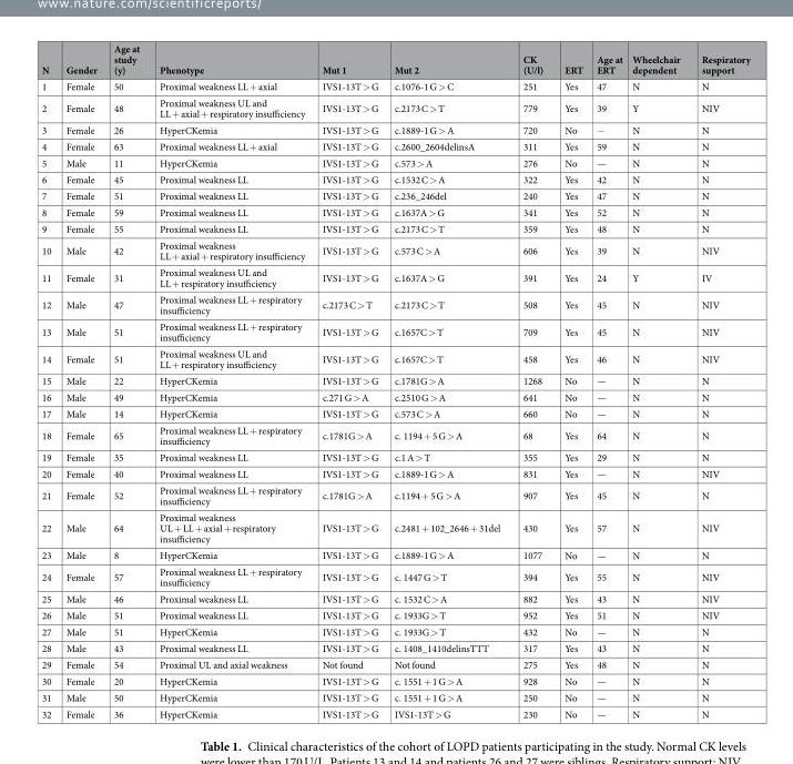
<table><thead><tr><td>N</td><td>Gender</td><td>Age at study (y)</td><td>Phenotype</td><td>Mut 1</td><td>Mut 2</td><td>CK (U/l)</td><td>ERT</td><td>Age at ERT</td><td>Wheelchair dependent</td><td>Respiratory support</td></tr></thead><tbody><tr><td>1</td><td>Female</td><td>50</td><td>Proximal weakness LL + axial</td><td>IVS1-13T &gt; G</td><td>c.1076-1 G &gt; C</td><td>251</td><td>Yes</td><td>47</td><td>N</td><td>N</td></tr><tr><td>2</td><td>Female</td><td>48</td><td>Proximal weakness UL and LL + axial + respiratory insufficiency</td><td>IVS1-13T &gt; G</td><td>c.2173 C &gt; T</td><td>779</td><td>Yes</td><td>39</td><td>Y</td><td>NIV</td></tr><tr><td>3</td><td>Female</td><td>26</td><td>HyperCKemia</td><td>IVS1-13T &gt; G</td><td>c.1889-1 G &gt; A</td><td>720</td><td>No</td><td>−</td><td>N</td><td>N</td></tr><tr><td>4</td><td>Female</td><td>63</td><td>Proximal weakness LL + axial</td><td>IVS1-13T &gt; G</td><td>c.2600_2604delinsA</td><td>311</td><td>Yes</td><td>59</td><td>N</td><td>N</td></tr><tr><td>5</td><td>Male</td><td>11</td><td>HyperCKemia</td><td>IVS1-13T &gt; G</td><td>c.573 &gt; A</td><td>276</td><td>No</td><td>—</td><td>N</td><td>N</td></tr><tr><td>6</td><td>Female</td><td>45</td><td>Proximal weakness LL</td><td>IVS1-13T &gt; G</td><td>c.1532 C &gt; A</td><td>322</td><td>Yes</td><td>42</td><td>N</td><td>N</td></tr><tr><td>7</td><td>Female</td><td>51</td><td>Proximal weakness LL</td><td>IVS1-13T &gt; G</td><td>c.236_246del</td><td>240</td><td>Yes</td><td>47</td><td>N</td><td>N</td></tr><tr><td>8</td><td>Female</td><td>59</td><td>Proximal weakness LL</td><td>IVS1-13T &gt; G</td><td>c.1637A &gt; G</td><td>341</td><td>Yes</td><td>52</td><td>N</td><td>N</td></tr><tr><td>9</td><td>Female</td><td>55</td><td>Proximal weakness LL</td><td>IVS1-13T &gt; G</td><td>c.2173 C &gt; T</td><td>359</td><td>Yes</td><td>48</td><td>N</td><td>N</td></tr><tr><td>10</td><td>Male</td><td>42</td><td>Proximal weakness LL + axial + respiratory insufficiency</td><td>IVS1-13T &gt; G</td><td>c.573 C &gt; A</td><td>606</td><td>Yes</td><td>39</td><td>N</td><td>NIV</td></tr><tr><td>11</td><td>Female</td><td>31</td><td>Proximal weakness UL and LL + respiratory insufficiency</td><td>IVS1-13T &gt; G</td><td>c.1637A &gt; G</td><td>391</td><td>Yes</td><td>24</td><td>Y</td><td>IV</td></tr><tr><td>12</td><td>Male</td><td>47</td><td>Proximal weakness LL + respiratory insufficiency</td><td>c.2173 C &gt; T</td><td>c.2173 C &gt; T</td><td>508</td><td>Yes</td><td>45</td><td>N</td><td>NIV</td></tr><tr><td>13</td><td>Male</td><td>51</td><td>Proximal weakness LL + respiratory insufficiency</td><td>IVS1-13T &gt; G</td><td>c.1657C &gt; T</td><td>709</td><td>Yes</td><td>45</td><td>N</td><td>NIV</td></tr><tr><td>14</td><td>Female</td><td>51</td><td>Proximal weakness UL and LL + respiratory insufficiency</td><td>IVS1-13T &gt; G</td><td>c.1657C &gt; T</td><td>458</td><td>Yes</td><td>46</td><td>N</td><td>NIV</td></tr><tr><td>15</td><td>Male</td><td>22</td><td>HyperCKemia</td><td>IVS1-13T &gt; G</td><td>c.1781G &gt; A</td><td>1268</td><td>No</td><td>—</td><td>N</td><td>N</td></tr><tr><td>16</td><td>Male</td><td>49</td><td>HyperCKemia</td><td>c.271 G &gt; A</td><td>c.2510 G &gt; A</td><td>641</td><td>No</td><td>—</td><td>N</td><td>N</td></tr><tr><td>17</td><td>Male</td><td>14</td><td>HyperCKemia</td><td>IVS1-13T &gt; G</td><td>c.573 C &gt; A</td><td>660</td><td>No</td><td>—</td><td>N</td><td>N</td></tr><tr><td>18</td><td>Female</td><td>65</td><td>Proximal weakness LL + respiratory insufficiency</td><td>c.1781G &gt; A</td><td>c. 1194 + 5 G &gt; A</td><td>68</td><td>Yes</td><td>64</td><td>N</td><td>N</td></tr><tr><td>19</td><td>Female</td><td>35</td><td>Proximal weakness LL</td><td>IVS1-13T &gt; G</td><td>c.1 A &gt; T</td><td>355</td><td>Yes</td><td>29</td><td>N</td><td>N</td></tr><tr><td>20</td><td>Female</td><td>40</td><td>Proximal weakness LL</td><td>IVS1-13T &gt; G</td><td>c.1889-1 G &gt; A</td><td>831</td><td>Yes</td><td>—</td><td>N</td><td>NIV</td></tr><tr><td>21</td><td>Female</td><td>52</td><td>Proximal weakness LL + respiratory insufficiency</td><td>c.1781G &gt; A</td><td>c.1194 + 5 G &gt; A</td><td>907</td><td>Yes</td><td>45</td><td>N</td><td>N</td></tr><tr><td>22</td><td>Male</td><td>64</td><td>Proximal weakness UL + LL + axial + respiratory insufficiency</td><td>IVS1-13T &gt; G</td><td>c.2481 + 102_2646 + 31del</td><td>430</td><td>Yes</td><td>57</td><td>N</td><td>NIV</td></tr><tr><td>23</td><td>Male</td><td>8</td><td>HyperCKemia</td><td>IVS1-13T &gt; G</td><td>c.1889-1 G &gt; A</td><td>1077</td><td>No</td><td>—</td><td>N</td><td>N</td></tr><tr><td>24</td><td>Female</td><td>57</td><td>Proximal weakness LL + respiratory insufficiency</td><td>IVS1-13T &gt; G</td><td>c. 1447 G &gt; T</td><td>394</td><td>Yes</td><td>55</td><td>N</td><td>NIV</td></tr><tr><td>25</td><td>Male</td><td>46</td><td>Proximal weakness LL</td><td>IVS1-13T &gt; G</td><td>c. 1532 C &gt; A</td><td>882</td><td>Yes</td><td>43</td><td>N</td><td>NIV</td></tr><tr><td>26</td><td>Male</td><td>51</td><td>Proximal weakness LL</td><td>IVS1-13T &gt; G</td><td>c. 1933G &gt; T</td><td>952</td><td>Yes</td><td>51</td><td>N</td><td>NIV</td></tr><tr><td>27</td><td>Male</td><td>51</td><td>HyperCKemia</td><td>IVS1-13T &gt; G</td><td>c. 1933G &gt; T</td><td>432</td><td>No</td><td>—</td><td>N</td><td>N</td></tr><tr><td>28</td><td>Male</td><td>43</td><td>Proximal weakness LL</td><td>IVS1-13T &gt; G</td><td>c. 1408_1410delinsTTT</td><td>317</td><td>Yes</td><td>43</td><td>N</td><td>N</td></tr><tr><td>29</td><td>Female</td><td>54</td><td>Proximal UL and axial weakness</td><td>Not found</td><td>Not found</td><td>275</td><td>Yes</td><td>48</td><td>N</td><td>N</td></tr><tr><td>30</td><td>Female</td><td>20</td><td>HyperCKemia</td><td>IVS1-13T &gt; G</td><td>c. 1551 + 1 G &gt; A</td><td>928</td><td>No</td><td>—</td><td>N</td><td>N</td></tr><tr><td>31</td><td>Male</td><td>50</td><td>HyperCKemia</td><td>IVS1-13T &gt; G</td><td>c. 1551 + 1 G &gt; A</td><td>250</td><td>No</td><td>—</td><td>N</td><td>N</td></tr><tr><td>32</td><td>Female</td><td>36</td><td>HyperCKemia</td><td>IVS1-13T &gt; G</td><td>IVS1-13T &gt; G</td><td>230</td><td>No</td><td>—</td><td>N</td><td>N</td></tr></tbody></table>